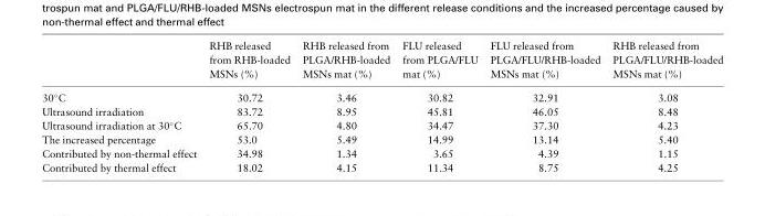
<table><thead><tr><td></td><td>RHB released from RHB-loaded MSNs (%)</td><td>RHB released from PLGA/RHB-loaded MSNs mat (%)</td><td>FLU released from PLGA/FLU mat (%)</td><td>FLU released from PLGA/FLU/RHB-loaded MSNs mat (%)</td><td>RHB released from PLGA/FLU/RHB-loaded MSNs mat (%)</td></tr></thead><tbody><tr><td>30°C</td><td>30.72</td><td>3.46</td><td>30.82</td><td>32.91</td><td>3.08</td></tr><tr><td>Ultrasound irradiation</td><td>83.72</td><td>8.95</td><td>45.81</td><td>46.05</td><td>8.48</td></tr><tr><td>Ultrasound irradiation at 30°C</td><td>65.70</td><td>4.80</td><td>34.47</td><td>37.30</td><td>4.23</td></tr><tr><td>The increased percentage</td><td>53.0</td><td>5.49</td><td>14.99</td><td>13.14</td><td>5.40</td></tr><tr><td>Contributed by non-thermal effect</td><td>34.98</td><td>1.34</td><td>3.65</td><td>4.39</td><td>1.15</td></tr><tr><td>Contributed by thermal effect</td><td>18.02</td><td>4.15</td><td>11.34</td><td>8.75</td><td>4.25</td></tr></tbody></table>